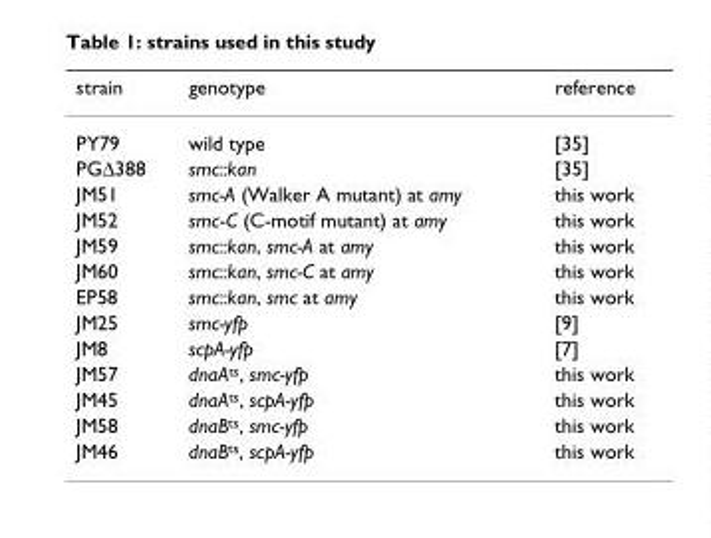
<table><thead><tr><td>strain</td><td>genotype</td><td>reference</td></tr></thead><tbody><tr><td>PY79</td><td>wild type</td><td>[35]</td></tr><tr><td>PG∆388</td><td>smc::kan</td><td>[35]</td></tr><tr><td>JM51</td><td>smc-A (Walker A mutant) at amy</td><td>this work</td></tr><tr><td>JM52</td><td>smc-C (C-motif mutant) at amy</td><td>this work</td></tr><tr><td>JM59</td><td>smc::kan, smc-A at amy</td><td>this work</td></tr><tr><td>JM60</td><td>smc::kan, smc-C at amy</td><td>this work</td></tr><tr><td>EP58</td><td>smc::kan, smc at amy</td><td>this work</td></tr><tr><td>JM25</td><td>smc-yfp</td><td>[9]</td></tr><tr><td>JM8</td><td>scpA-yfp</td><td>[7]</td></tr><tr><td>JM57</td><td>dnaA<sup>ts</sup>, smc-yfp</td><td>this work</td></tr><tr><td>JM45</td><td>dnaA<sup>ts</sup>, scpA-yfp</td><td>this work</td></tr><tr><td>JM58</td><td>dnaB<sup>ts</sup>, smc-yfp</td><td>this work</td></tr><tr><td>JM46</td><td>dnaB<sup>ts</sup>, scpA-yfp</td><td>this work</td></tr></tbody></table>